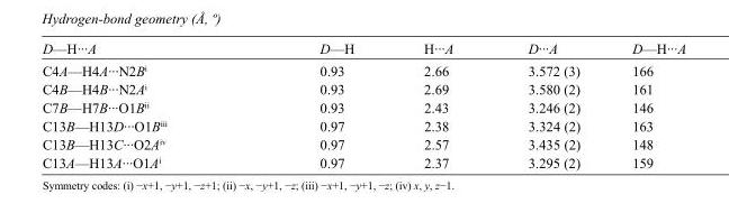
<table><tbody><tr><td>D—H···A</td><td>D—H</td><td>H···A</td><td>D···A</td><td>D—H···A</td></tr><tr><td>C4A—H4A···N2B<sup>i</sup></td><td>0.93</td><td>2.66</td><td>3.572 (3)</td><td>166</td></tr><tr><td>C4B—H4B···N2A<sup>i</sup></td><td>0.93</td><td>2.69</td><td>3.580 (2)</td><td>161</td></tr><tr><td>C7B—H7B···O1B<sup>ii</sup></td><td>0.93</td><td>2.43</td><td>3.246 (2)</td><td>146</td></tr><tr><td>C13B—H13D···O1B<sup>iii</sup></td><td>0.97</td><td>2.38</td><td>3.324 (2)</td><td>163</td></tr><tr><td>C13B—H13C···O2A<sup>iv</sup></td><td>0.97</td><td>2.57</td><td>3.435 (2)</td><td>148</td></tr><tr><td>C13A—H13A···O1A<sup>i</sup></td><td>0.97</td><td>2.37</td><td>3.295 (2)</td><td>159</td></tr></tbody></table>